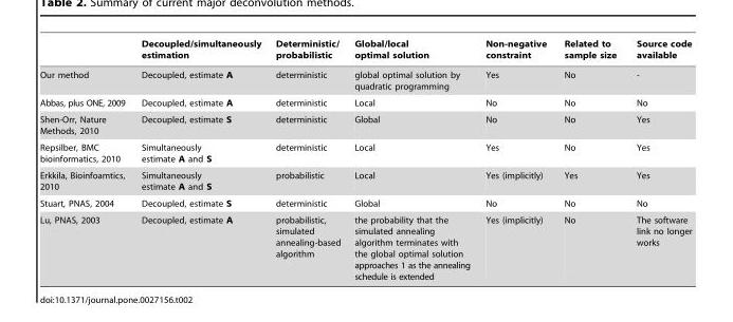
<table><thead><tr><td></td><td>Decoupled/simultaneously estimation</td><td>Deterministic/ probabilistic</td><td>Global/local optimal solution</td><td>Non-negative constraint</td><td>Related to sample size</td><td>Source code available</td></tr></thead><tbody><tr><td>Our method</td><td>Decoupled, estimate A</td><td>deterministic</td><td>global optimal solution by quadratic programming</td><td>Yes</td><td>No</td><td>-</td></tr><tr><td>Abbas, plus ONE, 2009</td><td>Decoupled, estimate A</td><td>deterministic</td><td>Local</td><td>No</td><td>No</td><td>No</td></tr><tr><td>Shen-Orr, Nature Methods, 2010</td><td>Decoupled, estimate S</td><td>deterministic</td><td>Global</td><td>No</td><td>No</td><td>Yes</td></tr><tr><td>Repsilber, BMC bioinformatics, 2010</td><td>Simultaneously estimate A and S</td><td>deterministic</td><td>Local</td><td>Yes</td><td>No</td><td>Yes</td></tr><tr><td>Erkkila, Bioinfoamtics, 2010</td><td>Simultaneously estimate A and S</td><td>probabilistic</td><td>Local</td><td>Yes (implicitly)</td><td>Yes</td><td>Yes</td></tr><tr><td>Stuart, PNAS, 2004</td><td>Decoupled, estimate S</td><td>deterministic</td><td>Global</td><td>No</td><td>No</td><td>No</td></tr><tr><td>Lu, PNAS, 2003</td><td>Decoupled, estimate A</td><td>probabilistic, simulated annealing-based algorithm</td><td>the probability that the simulated annealing algorithm terminates with the global optimal solution approaches 1 as the annealing schedule is extended</td><td>Yes (implicitly)</td><td>No</td><td>The software link no longer works</td></tr></tbody></table>